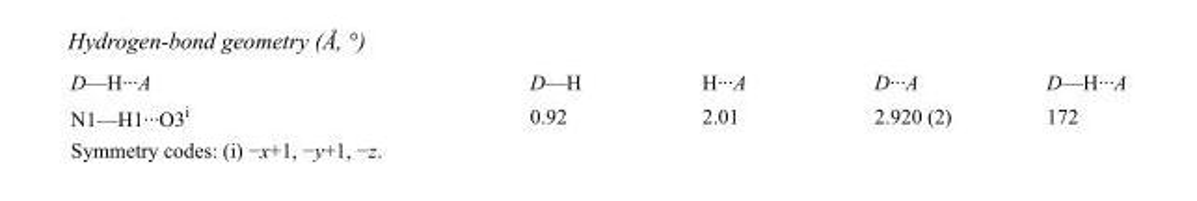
<table><tbody><tr><td>D—H···A</td><td>D—H</td><td>H···A</td><td>D···A</td><td>D—H···A</td></tr><tr><td>N1—H1···O3<sup>i</sup></td><td>0.92</td><td>2.01</td><td>2.920 (2)</td><td>172</td></tr></tbody></table>